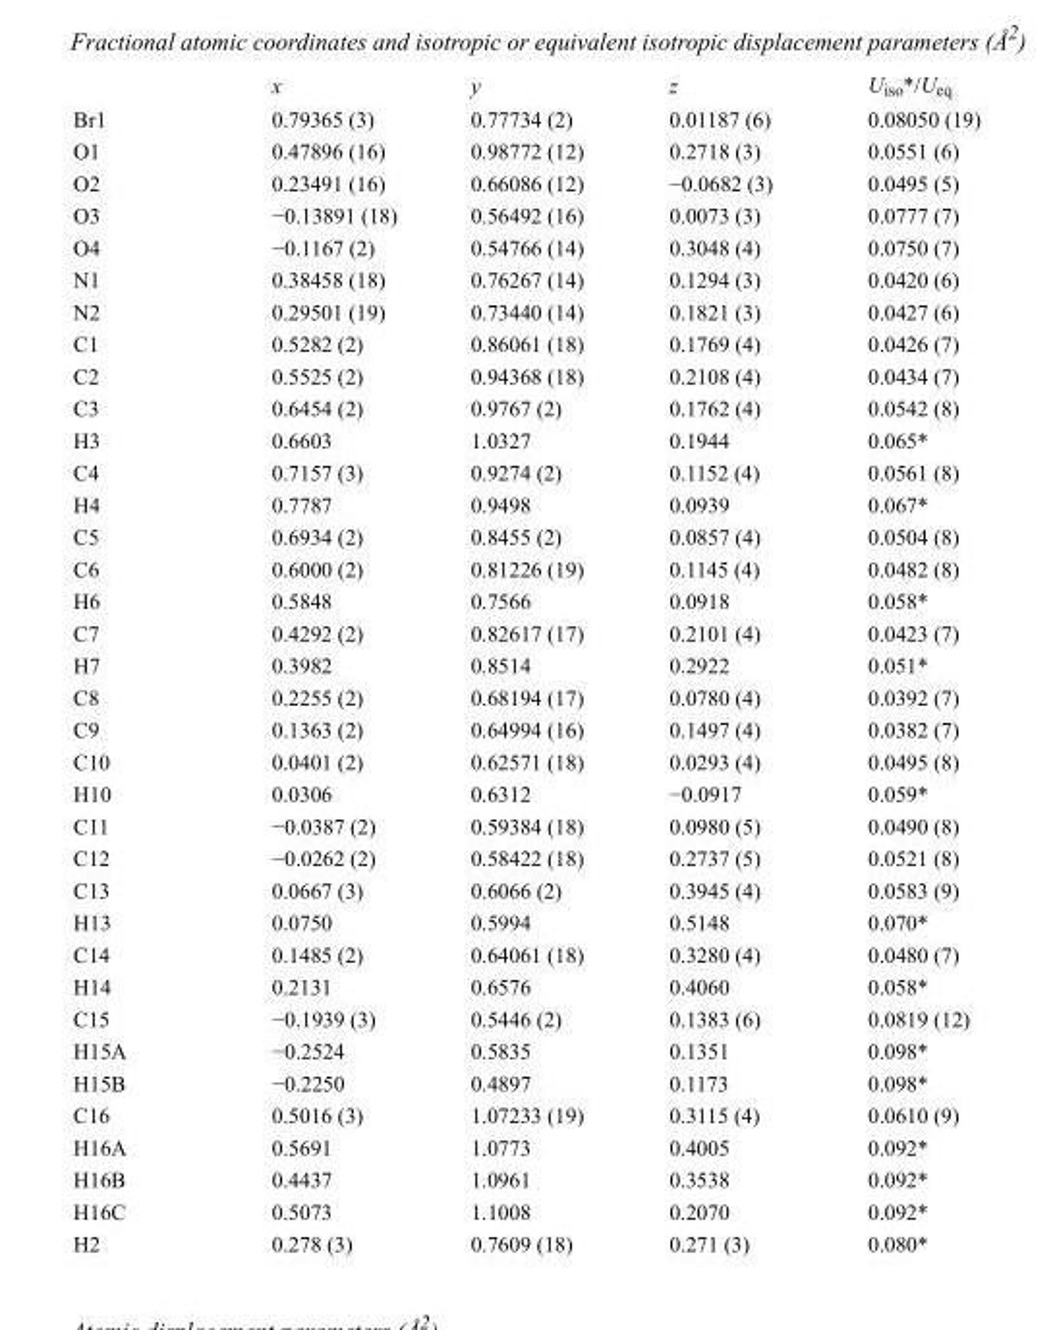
<table><thead><tr><td></td><td>x</td><td>y</td><td>z</td><td>U<sub>iso</sub>*/U<sub>eq</sub></td></tr></thead><tbody><tr><td>Br1</td><td>0.79365 (3)</td><td>0.77734 (2)</td><td>0.01187 (6)</td><td>0.08050 (19)</td></tr><tr><td>O1</td><td>0.47896 (16)</td><td>0.98772 (12)</td><td>0.2718 (3)</td><td>0.0551 (6)</td></tr><tr><td>O2</td><td>0.23491 (16)</td><td>0.66086 (12)</td><td>−0.0682 (3)</td><td>0.0495 (5)</td></tr><tr><td>O3</td><td>−0.13891 (18)</td><td>0.56492 (16)</td><td>0.0073 (3)</td><td>0.0777 (7)</td></tr><tr><td>O4</td><td>−0.1167 (2)</td><td>0.54766 (14)</td><td>0.3048 (4)</td><td>0.0750 (7)</td></tr><tr><td>N1</td><td>0.38458 (18)</td><td>0.76267 (14)</td><td>0.1294 (3)</td><td>0.0420 (6)</td></tr><tr><td>N2</td><td>0.29501 (19)</td><td>0.73440 (14)</td><td>0.1821 (3)</td><td>0.0427 (6)</td></tr><tr><td>C1</td><td>0.5282 (2)</td><td>0.86061 (18)</td><td>0.1769 (4)</td><td>0.0426 (7)</td></tr><tr><td>C2</td><td>0.5525 (2)</td><td>0.94368 (18)</td><td>0.2108 (4)</td><td>0.0434 (7)</td></tr><tr><td>C3</td><td>0.6454 (2)</td><td>0.9767 (2)</td><td>0.1762 (4)</td><td>0.0542 (8)</td></tr><tr><td>H3</td><td>0.6603</td><td>1.0327</td><td>0.1944</td><td>0.065*</td></tr><tr><td>C4</td><td>0.7157 (3)</td><td>0.9274 (2)</td><td>0.1152 (4)</td><td>0.0561 (8)</td></tr><tr><td>H4</td><td>0.7787</td><td>0.9498</td><td>0.0939</td><td>0.067*</td></tr><tr><td>C5</td><td>0.6934 (2)</td><td>0.8455 (2)</td><td>0.0857 (4)</td><td>0.0504 (8)</td></tr><tr><td>C6</td><td>0.6000 (2)</td><td>0.81226 (19)</td><td>0.1145 (4)</td><td>0.0482 (8)</td></tr><tr><td>H6</td><td>0.5848</td><td>0.7566</td><td>0.0918</td><td>0.058*</td></tr><tr><td>C7</td><td>0.4292 (2)</td><td>0.82617 (17)</td><td>0.2101 (4)</td><td>0.0423 (7)</td></tr><tr><td>H7</td><td>0.3982</td><td>0.8514</td><td>0.2922</td><td>0.051*</td></tr><tr><td>C8</td><td>0.2255 (2)</td><td>0.68194 (17)</td><td>0.0780 (4)</td><td>0.0392 (7)</td></tr><tr><td>C9</td><td>0.1363 (2)</td><td>0.64994 (16)</td><td>0.1497 (4)</td><td>0.0382 (7)</td></tr><tr><td>C10</td><td>0.0401 (2)</td><td>0.62571 (18)</td><td>0.0293 (4)</td><td>0.0495 (8)</td></tr><tr><td>H10</td><td>0.0306</td><td>0.6312</td><td>−0.0917</td><td>0.059*</td></tr><tr><td>C11</td><td>−0.0387 (2)</td><td>0.59384 (18)</td><td>0.0980 (5)</td><td>0.0490 (8)</td></tr><tr><td>C12</td><td>−0.0262 (2)</td><td>0.58422 (18)</td><td>0.2737 (5)</td><td>0.0521 (8)</td></tr><tr><td>C13</td><td>0.0667 (3)</td><td>0.6066 (2)</td><td>0.3945 (4)</td><td>0.0583 (9)</td></tr><tr><td>H13</td><td>0.0750</td><td>0.5994</td><td>0.5148</td><td>0.070*</td></tr><tr><td>C14</td><td>0.1485 (2)</td><td>0.64061 (18)</td><td>0.3280 (4)</td><td>0.0480 (7)</td></tr><tr><td>H14</td><td>0.2131</td><td>0.6576</td><td>0.4060</td><td>0.058*</td></tr><tr><td>C15</td><td>−0.1939 (3)</td><td>0.5446 (2)</td><td>0.1383 (6)</td><td>0.0819 (12)</td></tr><tr><td>H15A</td><td>−0.2524</td><td>0.5835</td><td>0.1351</td><td>0.098*</td></tr><tr><td>H15B</td><td>−0.2250</td><td>0.4897</td><td>0.1173</td><td>0.098*</td></tr><tr><td>C16</td><td>0.5016 (3)</td><td>1.07233 (19)</td><td>0.3115 (4)</td><td>0.0610 (9)</td></tr><tr><td>H16A</td><td>0.5691</td><td>1.0773</td><td>0.4005</td><td>0.092*</td></tr><tr><td>H16B</td><td>0.4437</td><td>1.0961</td><td>0.3538</td><td>0.092*</td></tr><tr><td>H16C</td><td>0.5073</td><td>1.1008</td><td>0.2070</td><td>0.092*</td></tr><tr><td>H2</td><td>0.278 (3)</td><td>0.7609 (18)</td><td>0.271 (3)</td><td>0.080*</td></tr></tbody></table>